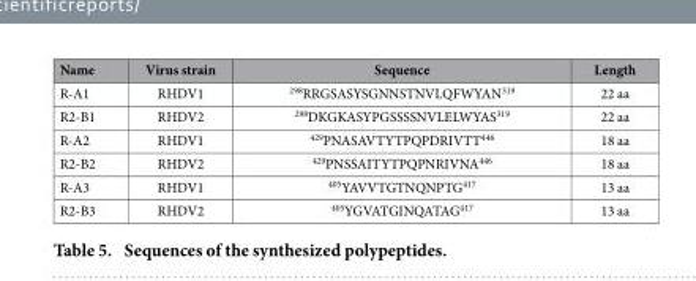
<table><thead><tr><td>Name</td><td>Virus strain</td><td>Sequence</td><td>Length</td></tr></thead><tbody><tr><td>R-A1</td><td>RHDV1</td><td><sup>298</sup>RRGSASYSGNNSTNVLQFWYAN<sup>319</sup></td><td>22 aa</td></tr><tr><td>R2-B1</td><td>RHDV2</td><td><sup>298</sup>DKGKASYPGSSSSNVLELWYAS<sup>319</sup></td><td>22 aa</td></tr><tr><td>R-A2</td><td>RHDV1</td><td><sup>429</sup>PNASAVTYTPQPDRIVTT<sup>446</sup></td><td>18 aa</td></tr><tr><td>R2-B2</td><td>RHDV2</td><td><sup>429</sup>PNSSAITYTPQPNRIVNA<sup>446</sup></td><td>18 aa</td></tr><tr><td>R-A3</td><td>RHDV1</td><td><sup>405</sup>YAVVTGTNQNPTG<sup>417</sup></td><td>13 aa</td></tr><tr><td>R2-B3</td><td>RHDV2</td><td><sup>405</sup>YGVATGINQATAG<sup>417</sup></td><td>13 aa</td></tr></tbody></table>